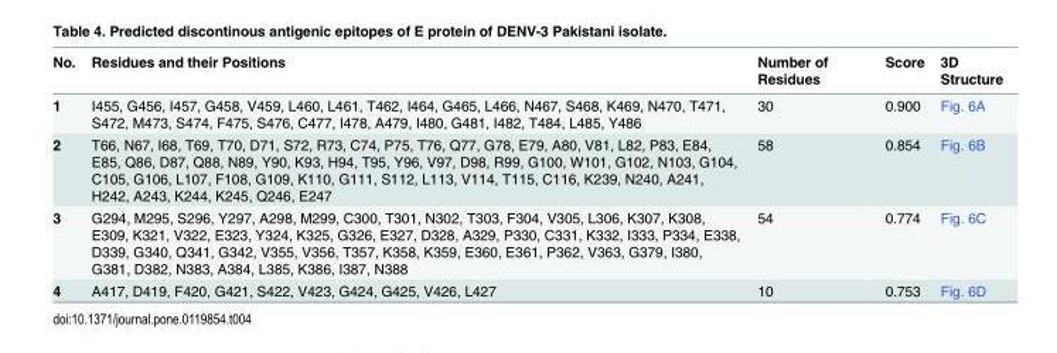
<table><thead><tr><td>No.</td><td>Residues and their Positions</td><td>Number of Residues</td><td>Score</td><td>3D Structure</td></tr></thead><tbody><tr><td>1</td><td>I455, G456, I457, G458, V459, L460, L461, T462, I464, G465, L466, N467, S468, K469, N470, T471, S472, M473, S474, F475, S476, C477, I478, A479, I480, G481, I482, T484, L485, Y486</td><td>30</td><td>0.900</td><td>Fig. 6A</td></tr><tr><td>2</td><td>T66, N67, I68, T69, T70, D71, S72, R73, C74, P75, T76, Q77, G78, E79, A80, V81, L82, P83, E84, E85, Q86, D87, Q88, N89, Y90, K93, H94, T95, Y96, V97, D98, R99, G100, W101, G102, N103, G104, C105, G106, L107, F108, G109, K110, G111, S112, L113, V114, T115, C116, K239, N240, A241, H242, A243, K244, K245, Q246, E247</td><td>58</td><td>0.854</td><td>Fig. 6B</td></tr><tr><td>3</td><td>G294, M295, S296, Y297, A298, M299, C300, T301, N302, T303, F304, V305, L306, K307, K308, E309, K321, V322, E323, Y324, K325, G326, E327, D328, A329, P330, C331, K332, I333, P334, E338, D339, G340, Q341, G342, V355, V356, T357, K358, K359, E360, E361, P362, V363, G379, I380, G381, D382, N383, A384, L385, K386, I387, N388</td><td>54</td><td>0.774</td><td>Fig. 6C</td></tr><tr><td>4</td><td>A417, D419, F420, G421, S422, V423, G424, G425, V426, L427</td><td>10</td><td>0.753</td><td>Fig. 6D</td></tr></tbody></table>